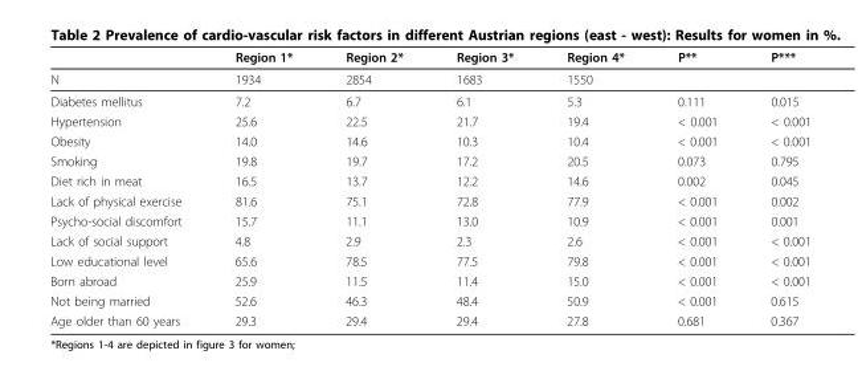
<table><thead><tr><td></td><td>Region 1*</td><td>Region 2*</td><td>Region 3*</td><td>Region 4*</td><td>P**</td><td>P***</td></tr></thead><tbody><tr><td>N</td><td>1934</td><td>2854</td><td>1683</td><td>1550</td><td></td><td></td></tr><tr><td>Diabetes mellitus</td><td>7.2</td><td>6.7</td><td>6.1</td><td>5.3</td><td>0.111</td><td>0.015</td></tr><tr><td>Hypertension</td><td>25.6</td><td>22.5</td><td>21.7</td><td>19.4</td><td>&lt; 0.001</td><td>&lt; 0.001</td></tr><tr><td>Obesity</td><td>14.0</td><td>14.6</td><td>10.3</td><td>10.4</td><td>&lt; 0.001</td><td>&lt; 0.001</td></tr><tr><td>Smoking</td><td>19.8</td><td>19.7</td><td>17.2</td><td>20.5</td><td>0.073</td><td>0.795</td></tr><tr><td>Diet rich in meat</td><td>16.5</td><td>13.7</td><td>12.2</td><td>14.6</td><td>0.002</td><td>0.045</td></tr><tr><td>Lack of physical exercise</td><td>81.6</td><td>75.1</td><td>72.8</td><td>77.9</td><td>&lt; 0.001</td><td>0.002</td></tr><tr><td>Psycho-social discomfort</td><td>15.7</td><td>11.1</td><td>13.0</td><td>10.9</td><td>&lt; 0.001</td><td>0.001</td></tr><tr><td>Lack of social support</td><td>4.8</td><td>2.9</td><td>2.3</td><td>2.6</td><td>&lt; 0.001</td><td>&lt; 0.001</td></tr><tr><td>Low educational level</td><td>65.6</td><td>78.5</td><td>77.5</td><td>79.8</td><td>&lt; 0.001</td><td>&lt; 0.001</td></tr><tr><td>Born abroad</td><td>25.9</td><td>11.5</td><td>11.4</td><td>15.0</td><td>&lt; 0.001</td><td>&lt; 0.001</td></tr><tr><td>Not being married</td><td>52.6</td><td>46.3</td><td>48.4</td><td>50.9</td><td>&lt; 0.001</td><td>0.615</td></tr><tr><td>Age older than 60 years</td><td>29.3</td><td>29.4</td><td>29.4</td><td>27.8</td><td>0.681</td><td>0.367</td></tr></tbody></table>